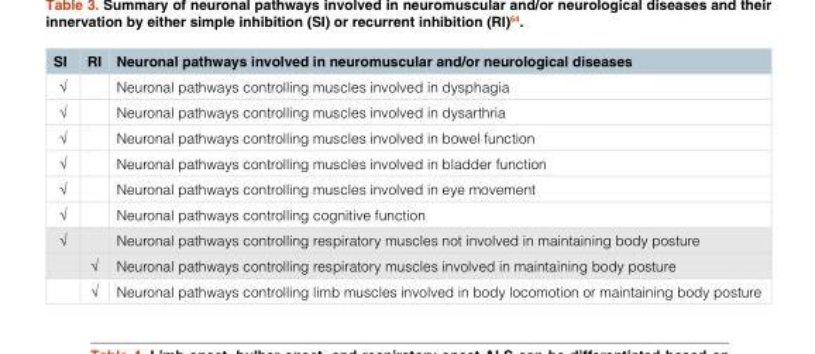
<table><thead><tr><td>SI</td><td>RI</td><td>Neuronal pathways involved in neuromuscular and/or neurological diseases</td></tr></thead><tbody><tr><td>√</td><td></td><td>Neuronal pathways controlling muscles involved in dysphagia</td></tr><tr><td>√</td><td></td><td>Neuronal pathways controlling muscles involved in dysarthria</td></tr><tr><td>√</td><td></td><td>Neuronal pathways controlling muscles involved in bowel function</td></tr><tr><td>√</td><td></td><td>Neuronal pathways controlling muscles involved in bladder function</td></tr><tr><td>√</td><td></td><td>Neuronal pathways controlling muscles involved in eye movement</td></tr><tr><td>√</td><td></td><td>Neuronal pathways controlling cognitive function</td></tr><tr><td rowspan="3">√</td><td></td><td>Neuronal pathways controlling respiratory muscles not involved in maintaining body posture</td></tr><tr><td>√</td><td>Neuronal pathways controlling respiratory muscles involved in maintaining body posture</td></tr><tr><td>√</td><td>Neuronal pathways controlling limb muscles involved in body locomotion or maintaining body posture</td></tr></tbody></table>